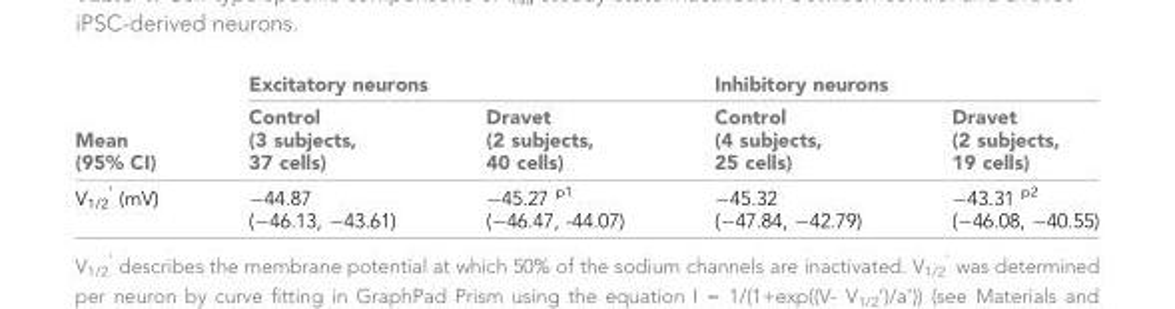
<table><thead><tr><td rowspan="2">Mean (95% CI)</td><td colspan="2">Excitatory neurons</td><td colspan="2">Inhibitory neurons</td></tr><tr><td>Control (3 subjects, 37 cells)</td><td>Dravet (2 subjects, 40 cells)</td><td>Control (4 subjects, 25 cells)</td><td>Dravet (2 subjects, 19 cells)</td></tr></thead><tbody><tr><td>V<sub>1/2</sub> <sup>’</sup> (mV)</td><td>−44.87 (−46.13, −43.61)</td><td>−45.27 <sup>p1</sup> (−46.47, -44.07)</td><td>−45.32 (−47.84, −42.79)</td><td>−43.31 <sup>p2</sup> (−46.08, −40.55)</td></tr></tbody></table>